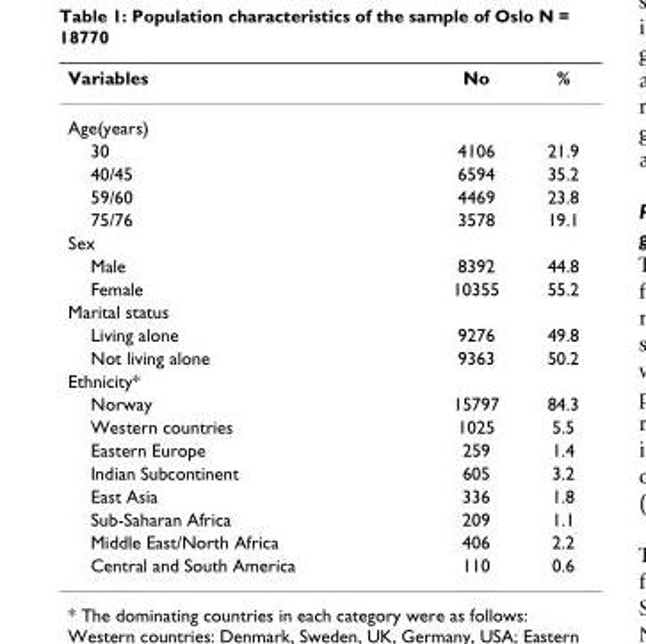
<table><thead><tr><td>Variables</td><td>No</td><td>%</td></tr></thead><tbody><tr><td colspan="3">Age(years)</td></tr><tr><td>30</td><td>4106</td><td>21.9</td></tr><tr><td>40/45</td><td>6594</td><td>35.2</td></tr><tr><td>59/60</td><td>4469</td><td>23.8</td></tr><tr><td>75/76</td><td>3578</td><td>19.1</td></tr><tr><td colspan="3">Sex</td></tr><tr><td>Male</td><td>8392</td><td>44.8</td></tr><tr><td>Female</td><td>10355</td><td>55.2</td></tr><tr><td colspan="3">Marital status</td></tr><tr><td>Living alone</td><td>9276</td><td>49.8</td></tr><tr><td>Not living alone</td><td>9363</td><td>50.2</td></tr><tr><td colspan="3">Ethnicity*</td></tr><tr><td>Norway</td><td>15797</td><td>84.3</td></tr><tr><td>Western countries</td><td>1025</td><td>5.5</td></tr><tr><td>Eastern Europe</td><td>259</td><td>1.4</td></tr><tr><td>Indian Subcontinent</td><td>605</td><td>3.2</td></tr><tr><td>East Asia</td><td>336</td><td>1.8</td></tr><tr><td>Sub-Saharan Africa</td><td>209</td><td>1.1</td></tr><tr><td>Middle East/North Africa</td><td>406</td><td>2.2</td></tr><tr><td>Central and South America</td><td>110</td><td>0.6</td></tr></tbody></table>